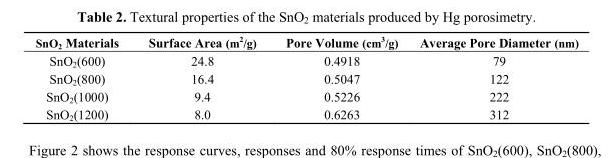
<table><thead><tr><td>SnO<sub>2</sub> Materials</td><td>Surface Area (m<sup>2</sup>/g)</td><td>Pore Volume (cm<sup>3</sup>/g)</td><td>Average Pore Diameter (nm)</td></tr></thead><tbody><tr><td>SnO<sub>2</sub>(600)</td><td>24.8</td><td>0.4918</td><td>79</td></tr><tr><td>SnO<sub>2</sub>(800)</td><td>16.4</td><td>0.5047</td><td>122</td></tr><tr><td>SnO<sub>2</sub>(1000)</td><td>9.4</td><td>0.5226</td><td>222</td></tr><tr><td>SnO<sub>2</sub>(1200)</td><td>8.0</td><td>0.6263</td><td>312</td></tr></tbody></table>